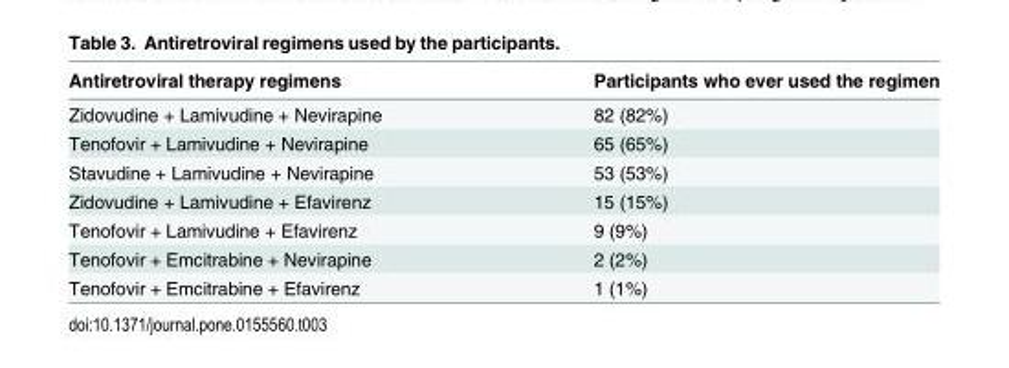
<table><thead><tr><td>Antiretroviral therapy regimens</td><td>Participants who ever used the regimen</td></tr></thead><tbody><tr><td>Zidovudine + Lamivudine + Nevirapine</td><td>82 (82%)</td></tr><tr><td>Tenofovir + Lamivudine + Nevirapine</td><td>65 (65%)</td></tr><tr><td>Stavudine + Lamivudine + Nevirapine</td><td>53 (53%)</td></tr><tr><td>Zidovudine + Lamivudine + Efavirenz</td><td>15 (15%)</td></tr><tr><td>Tenofovir + Lamivudine + Efavirenz</td><td>9 (9%)</td></tr><tr><td>Tenofovir + Emcitrabine + Nevirapine</td><td>2 (2%)</td></tr><tr><td>Tenofovir + Emcitrabine + Efavirenz</td><td>1 (1%)</td></tr></tbody></table>